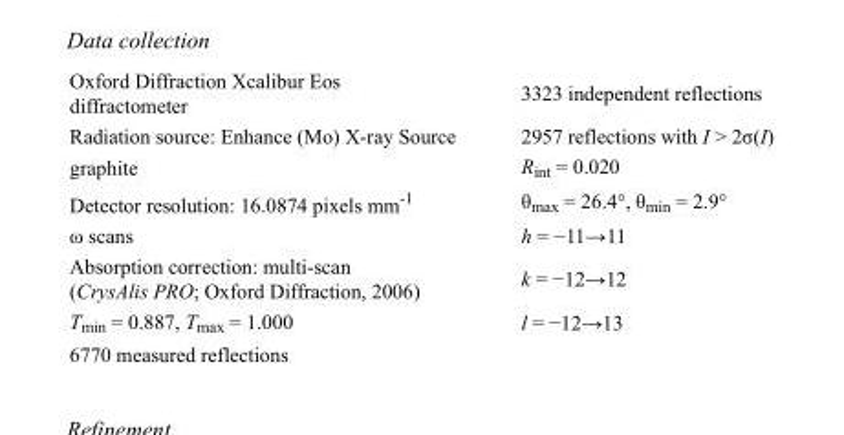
<table><tbody><tr><td>Oxford Diffraction Xcalibur Eos diffractometer</td><td>3323 independent reflections</td></tr><tr><td>Radiation source: Enhance (Mo) X-ray Source</td><td>2957 reflections with I &gt; 2σ(I)</td></tr><tr><td>graphite</td><td>R<sub>int</sub> = 0.020</td></tr><tr><td>Detector resolution: 16.0874 pixels mm<sup>-1</sup></td><td>θ<sub>max</sub> = 26.4°, θ<sub>min</sub> = 2.9°</td></tr><tr><td>ω scans</td><td>h = −11→11</td></tr><tr><td>Absorption correction: multi-scan (CrysAlis PRO; Oxford Diffraction, 2006)</td><td>k = −12→12</td></tr><tr><td>T<sub>min</sub> = 0.887, T<sub>max</sub> = 1.000</td><td>l = −12→13</td></tr><tr><td>6770 measured reflections</td><td></td></tr></tbody></table>